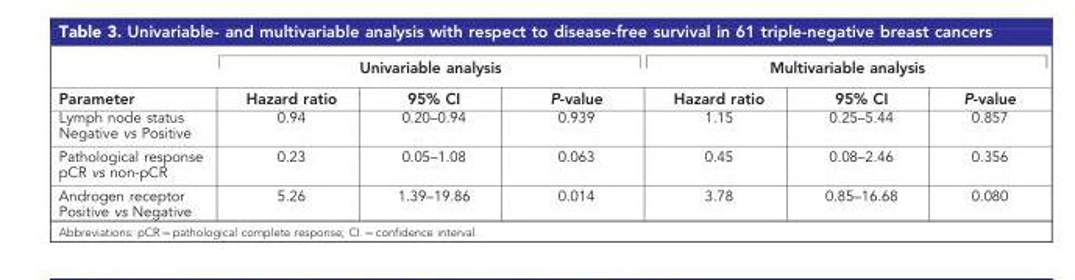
<table><thead><tr><td rowspan="2">Parameter</td><td colspan="3">Univariable analysis</td><td colspan="3">Multivariable analysis</td></tr><tr><td>Hazard ratio</td><td>95% CI</td><td>P-value</td><td>Hazard ratio</td><td>95% CI</td><td>P-value</td></tr></thead><tbody><tr><td>Lymph node status Negative vs Positive</td><td>0.94</td><td>0.20–0.94</td><td>0.939</td><td>1.15</td><td>0.25–5.44</td><td>0.857</td></tr><tr><td>Pathological response pCR vs non-pCR</td><td>0.23</td><td>0.05–1.08</td><td>0.063</td><td>0.45</td><td>0.08–2.46</td><td>0.356</td></tr><tr><td>Androgen receptor Positive vs Negative</td><td>5.26</td><td>1.39–19.86</td><td>0.014</td><td>3.78</td><td>0.85–16.68</td><td>0.080</td></tr></tbody></table>